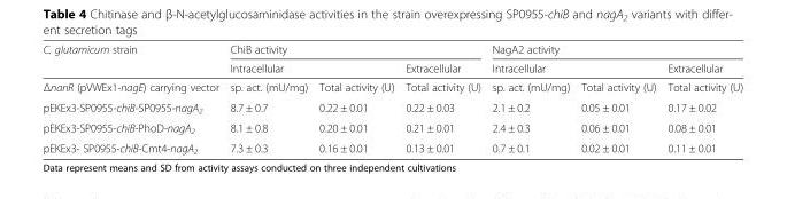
<table><thead><tr><td rowspan="3">C. glutamicum strain ΔnanR (pVWEx1-nagE) carrying vector</td><td colspan="3">ChiB activity</td><td colspan="3">NagA2 activity</td></tr><tr><td colspan="2">Intracellular</td><td rowspan="2">Extracellular Total activity (U)</td><td colspan="2">Intracellular</td><td rowspan="2">Extracellular Total activity (U)</td></tr><tr><td>sp. act. (mU/mg)</td><td>Total activity (U)</td><td>sp. act. (mU/mg)</td><td>Total activity (U)</td></tr></thead><tbody><tr><td>pEKEx3-SP0955-chiB-SP0955-nagA<sub>2</sub></td><td>8.7 ± 0.7</td><td>0.22 ± 0.01</td><td>0.22 ± 0.03</td><td>2.1 ± 0.2</td><td>0.05 ± 0.01</td><td>0.17 ± 0.02</td></tr><tr><td>pEKEx3-SP0955-chiB-PhoD-nagA<sub>2</sub></td><td>8.1 ± 0.8</td><td>0.20 ± 0.01</td><td>0.21 ± 0.01</td><td>2.4 ± 0.3</td><td>0.06 ± 0.01</td><td>0.08 ± 0.01</td></tr><tr><td>pEKEx3- SP0955-chiB-Cmt4-nagA<sub>2</sub></td><td>7.3 ± 0.3</td><td>0.16 ± 0.01</td><td>0.13 ± 0.01</td><td>0.7 ± 0.1</td><td>0.02 ± 0.01</td><td>0.11 ± 0.01</td></tr></tbody></table>